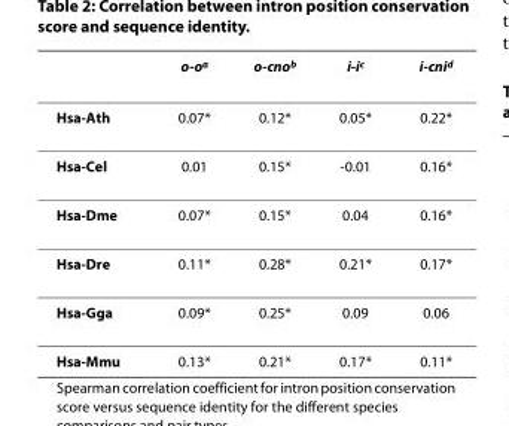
<table><thead><tr><td></td><td>o-o<sup>a</sup></td><td>o-cno<sup>b</sup></td><td>i-i<sup>c</sup></td><td>i-cni<sup>d</sup></td></tr></thead><tbody><tr><td>Hsa-Ath</td><td>0.07*</td><td>0.12*</td><td>0.05*</td><td>0.22*</td></tr><tr><td>Hsa-Cel</td><td>0.01</td><td>0.15*</td><td>-0.01</td><td>0.16*</td></tr><tr><td>Hsa-Dme</td><td>0.07*</td><td>0.15*</td><td>0.04</td><td>0.16*</td></tr><tr><td>Hsa-Dre</td><td>0.11*</td><td>0.28*</td><td>0.21*</td><td>0.17*</td></tr><tr><td>Hsa-Gga</td><td>0.09*</td><td>0.25*</td><td>0.09</td><td>0.06</td></tr><tr><td>Hsa-Mmu</td><td>0.13*</td><td>0.21*</td><td>0.17*</td><td>0.11*</td></tr></tbody></table>